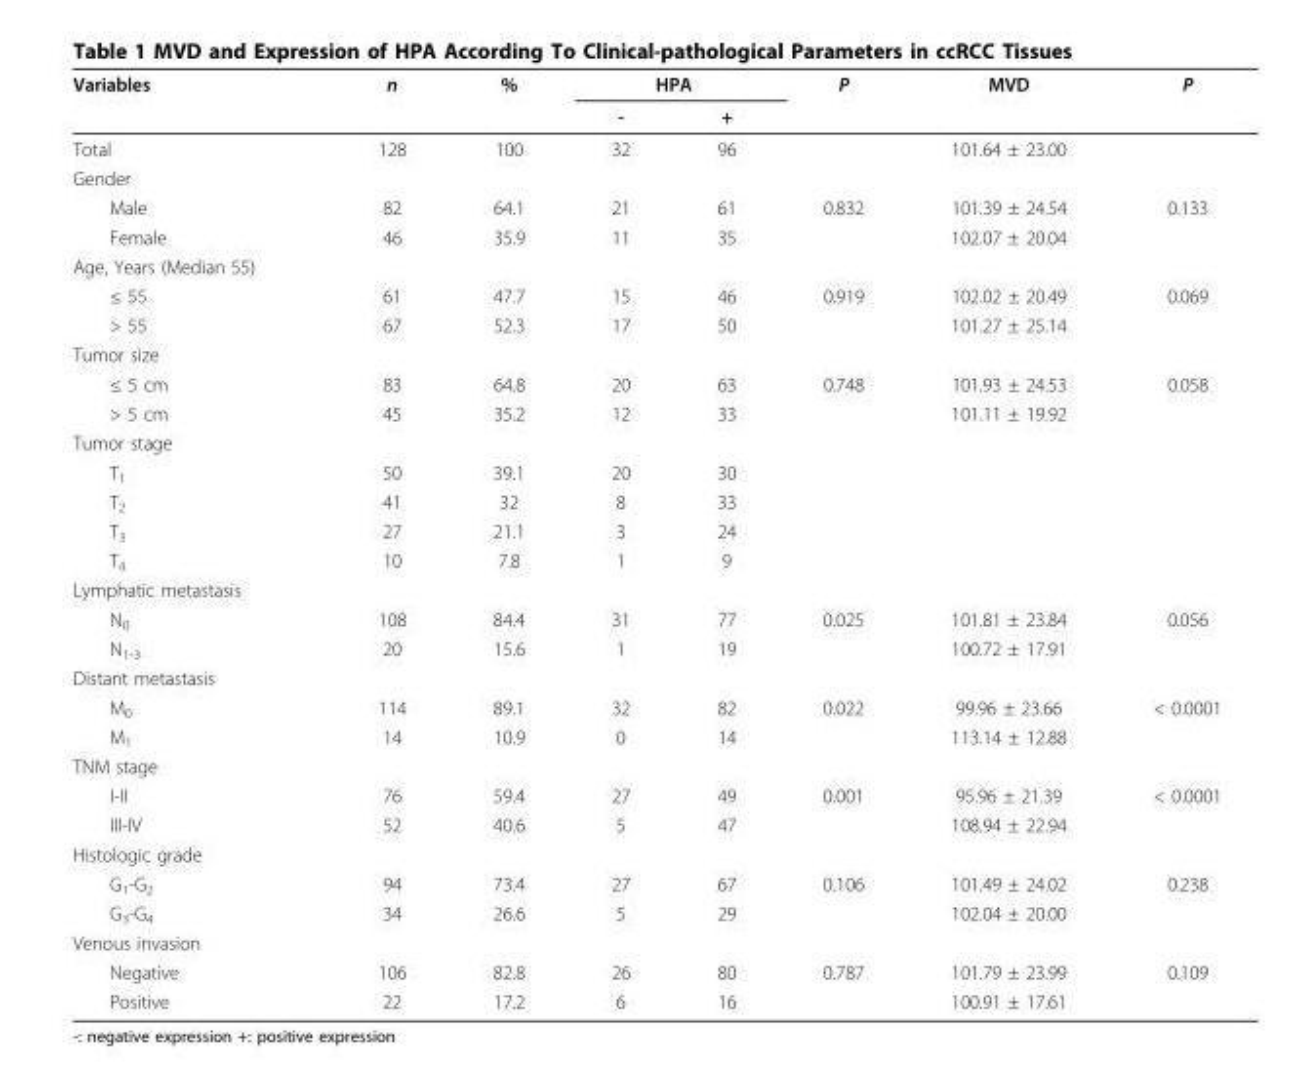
<table><thead><tr><td rowspan="2">Variables</td><td rowspan="2">n</td><td rowspan="2">%</td><td colspan="2">HPA</td><td rowspan="2">P</td><td rowspan="2">MVD</td><td rowspan="2">P</td></tr><tr><td>-</td><td>+</td></tr></thead><tbody><tr><td>Total</td><td>128</td><td>100</td><td>32</td><td>96</td><td></td><td>101.64 ± 23.00</td><td></td></tr><tr><td colspan="8">Gender</td></tr><tr><td>Male</td><td>82</td><td>64.1</td><td>21</td><td>61</td><td>0.832</td><td>101.39 ± 24.54</td><td>0.133</td></tr><tr><td>Female</td><td>46</td><td>35.9</td><td>11</td><td>35</td><td></td><td>102.07 ± 20.04</td><td></td></tr><tr><td colspan="8">Age, Years (Median 55)</td></tr><tr><td>≤ 55</td><td>61</td><td>47.7</td><td>15</td><td>46</td><td>0.919</td><td>102.02 ± 20.49</td><td>0.069</td></tr><tr><td>&gt; 55</td><td>67</td><td>52.3</td><td>17</td><td>50</td><td></td><td>101.27 ± 25.14</td><td></td></tr><tr><td colspan="8">Tumor size</td></tr><tr><td>≤ 5 cm</td><td>83</td><td>64.8</td><td>20</td><td>63</td><td>0.748</td><td>101.93 ± 24.53</td><td>0.058</td></tr><tr><td>&gt; 5 cm</td><td>45</td><td>35.2</td><td>12</td><td>33</td><td></td><td>101.11 ± 19.92</td><td></td></tr><tr><td colspan="8">Tumor stage</td></tr><tr><td>T<sub>1</sub></td><td>50</td><td>39.1</td><td>20</td><td>30</td><td></td><td></td><td></td></tr><tr><td>T<sub>2</sub></td><td>41</td><td>32</td><td>8</td><td>33</td><td></td><td></td><td></td></tr><tr><td>T<sub>3</sub></td><td>27</td><td>21.1</td><td>3</td><td>24</td><td></td><td></td><td></td></tr><tr><td>T<sub>4</sub></td><td>10</td><td>7.8</td><td>1</td><td>9</td><td></td><td></td><td></td></tr><tr><td colspan="8">Lymphatic metastasis</td></tr><tr><td>N<sub>0</sub></td><td>108</td><td>84.4</td><td>31</td><td>77</td><td>0.025</td><td>101.81 ± 23.84</td><td>0.056</td></tr><tr><td>N<sub>1-3</sub></td><td>20</td><td>15.6</td><td>1</td><td>19</td><td></td><td>100.72 ± 17.91</td><td></td></tr><tr><td colspan="8">Distant metastasis</td></tr><tr><td>M<sub>0</sub></td><td>114</td><td>89.1</td><td>32</td><td>82</td><td>0.022</td><td>99.96 ± 23.66</td><td>&lt; 0.0001</td></tr><tr><td>M<sub>1</sub></td><td>14</td><td>10.9</td><td>0</td><td>14</td><td></td><td>113.14 ± 12.88</td><td></td></tr><tr><td colspan="8">TNM stage</td></tr><tr><td>I-II</td><td>76</td><td>59.4</td><td>27</td><td>49</td><td>0.001</td><td>95.96 ± 21.39</td><td>&lt; 0.0001</td></tr><tr><td>III-IV</td><td>52</td><td>40.6</td><td>5</td><td>47</td><td></td><td>108.94 ± 22.94</td><td></td></tr><tr><td colspan="8">Histologic grade</td></tr><tr><td>G<sub>1</sub>-G<sub>2</sub></td><td>94</td><td>73.4</td><td>27</td><td>67</td><td>0.106</td><td>101.49 ± 24.02</td><td>0.238</td></tr><tr><td>G<sub>3</sub>-G<sub>4</sub></td><td>34</td><td>26.6</td><td>5</td><td>29</td><td></td><td>102.04 ± 20.00</td><td></td></tr><tr><td colspan="8">Venous invasion</td></tr><tr><td>Negative</td><td>106</td><td>82.8</td><td>26</td><td>80</td><td>0.787</td><td>101.79 ± 23.99</td><td>0.109</td></tr><tr><td>Positive</td><td>22</td><td>17.2</td><td>6</td><td>16</td><td></td><td>100.91 ± 17.61</td><td></td></tr></tbody></table>